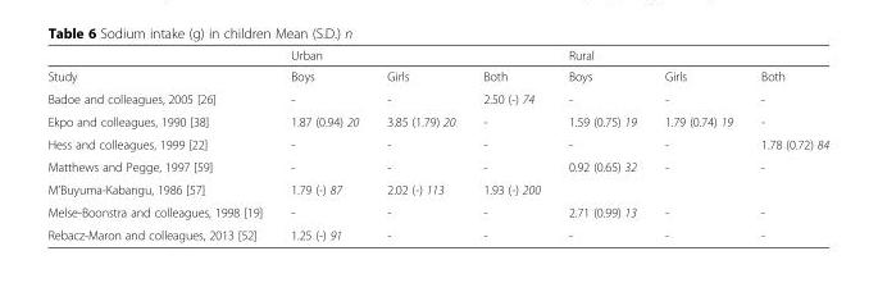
<table><thead><tr><td rowspan="2">Study</td><td colspan="3">Urban</td><td colspan="3">Rural</td></tr><tr><td>Boys</td><td>Girls</td><td>Both</td><td>Boys</td><td>Girls</td><td>Both</td></tr></thead><tbody><tr><td>Badoe and colleagues, 2005 [26]</td><td>-</td><td>-</td><td>2.50 (-) 74</td><td>-</td><td>-</td><td>-</td></tr><tr><td>Ekpo and colleagues, 1990 [38]</td><td>1.87 (0.94) 20</td><td>3.85 (1.79) 20</td><td>-</td><td>1.59 (0.75) 19</td><td>1.79 (0.74) 19</td><td>-</td></tr><tr><td>Hess and colleagues, 1999 [22]</td><td>-</td><td>-</td><td>-</td><td>-</td><td>-</td><td>1.78 (0.72) 84</td></tr><tr><td>Matthews and Pegge, 1997 [59]</td><td>-</td><td>-</td><td>-</td><td>0.92 (0.65) 32</td><td>-</td><td>-</td></tr><tr><td>M’Buyuma-Kabangu, 1986 [57]</td><td>1.79 (-) 87</td><td>2.02 (-) 113</td><td>1.93 (-) 200</td><td></td><td></td><td></td></tr><tr><td>Melse-Boonstra and colleagues, 1998 [19]</td><td>-</td><td>-</td><td>-</td><td>2.71 (0.99) 13</td><td>-</td><td>-</td></tr><tr><td>Rebacz-Maron and colleagues, 2013 [52]</td><td>1.25 (-) 91</td><td>-</td><td>-</td><td>-</td><td>-</td><td>-</td></tr></tbody></table>